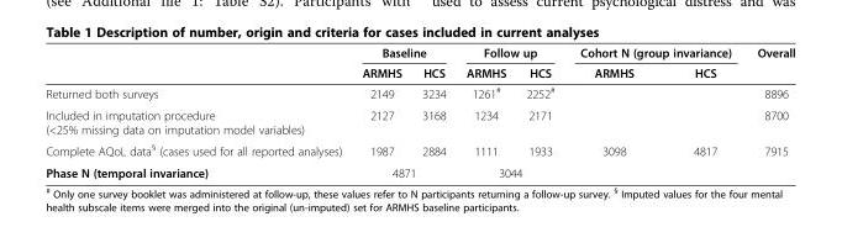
<table><thead><tr><td rowspan="2"></td><td colspan="2">Baseline</td><td colspan="2">Follow up</td><td colspan="2">Cohort N (group invariance)</td><td rowspan="2">Overall</td></tr><tr><td>ARMHS</td><td>HCS</td><td>ARMHS</td><td>HCS</td><td>ARMHS</td><td>HCS</td></tr></thead><tbody><tr><td>Returned both surveys</td><td>2149</td><td>3234</td><td>1261<sup>#</sup></td><td>2252<sup>#</sup></td><td colspan="2"></td><td>8896</td></tr><tr><td>Included in imputation procedure (&lt;25% missing data on imputation model variables)</td><td>2127</td><td>3168</td><td>1234</td><td>2171</td><td></td><td></td><td>8700</td></tr><tr><td>Complete AQoL data<sup>§</sup> (cases used for all reported analyses)</td><td>1987</td><td>2884</td><td>1111</td><td>1933</td><td>3098</td><td>4817</td><td>7915</td></tr><tr><td>Phase N (temporal invariance)</td><td colspan="2">4871</td><td colspan="2">3044</td><td></td><td></td><td></td></tr></tbody></table>